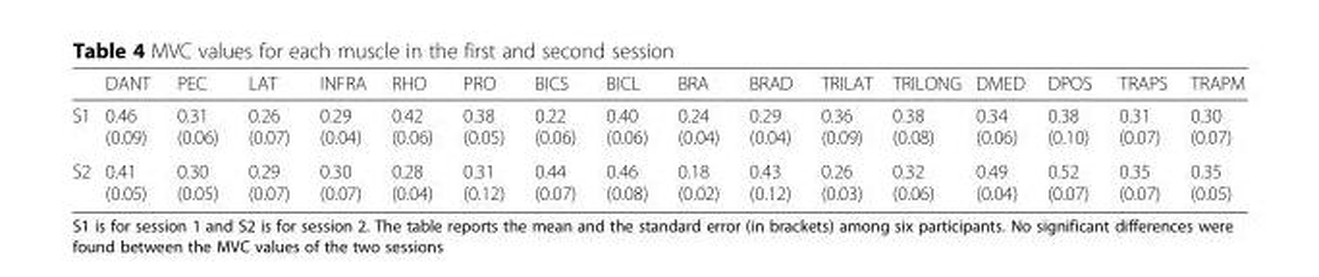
<table><thead><tr><td></td><td>DANT</td><td>PEC</td><td>LAT</td><td>INFRA</td><td>RHO</td><td>PRO</td><td>BICS</td><td>BICL</td><td>BRA</td><td>BRAD</td><td>TRILAT</td><td>TRILONG</td><td>DMED</td><td>DPOS</td><td>TRAPS</td><td>TRAPM</td></tr></thead><tbody><tr><td>S1</td><td>0.46 (0.09)</td><td>0.31 (0.06)</td><td>0.26 (0.07)</td><td>0.29 (0.04)</td><td>0.42 (0.06)</td><td>0.38 (0.05)</td><td>0.22 (0.06)</td><td>0.40 (0.06)</td><td>0.24 (0.04)</td><td>0.29 (0.04)</td><td>0.36 (0.09)</td><td>0.38 (0.08)</td><td>0.34 (0.06)</td><td>0.38 (0.10)</td><td>0.31 (0.07)</td><td>0.30 (0.07)</td></tr><tr><td>S2</td><td>0.41 (0.05)</td><td>0.30 (0.05)</td><td>0.29 (0.07)</td><td>0.30 (0.07)</td><td>0.28 (0.04)</td><td>0.31 (0.12)</td><td>0.44 (0.07)</td><td>0.46 (0.08)</td><td>0.18 (0.02)</td><td>0.43 (0.12)</td><td>0.26 (0.03)</td><td>0.32 (0.06)</td><td>0.49 (0.04)</td><td>0.52 (0.07)</td><td>0.35 (0.07)</td><td>0.35 (0.05)</td></tr></tbody></table>